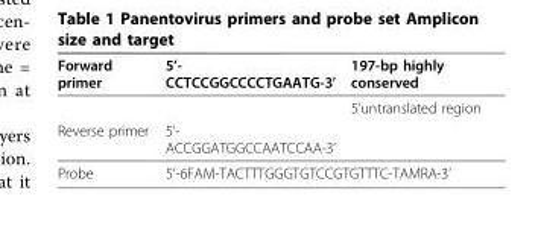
<table><thead><tr><td>Forward primer</td><td>5’- CCTCCGGCCCCTGAATG-3’</td><td>197-bp highly conserved</td></tr></thead><tbody><tr><td></td><td></td><td>5’untranslated region</td></tr><tr><td>Reverse primer</td><td>5’- ACCGGATGGCCAATCCAA-3’</td><td></td></tr><tr><td>Probe</td><td colspan="2">5’-6FAM-TACTTTGGGTGTCCGTGTTTC-TAMRA-3’</td></tr></tbody></table>